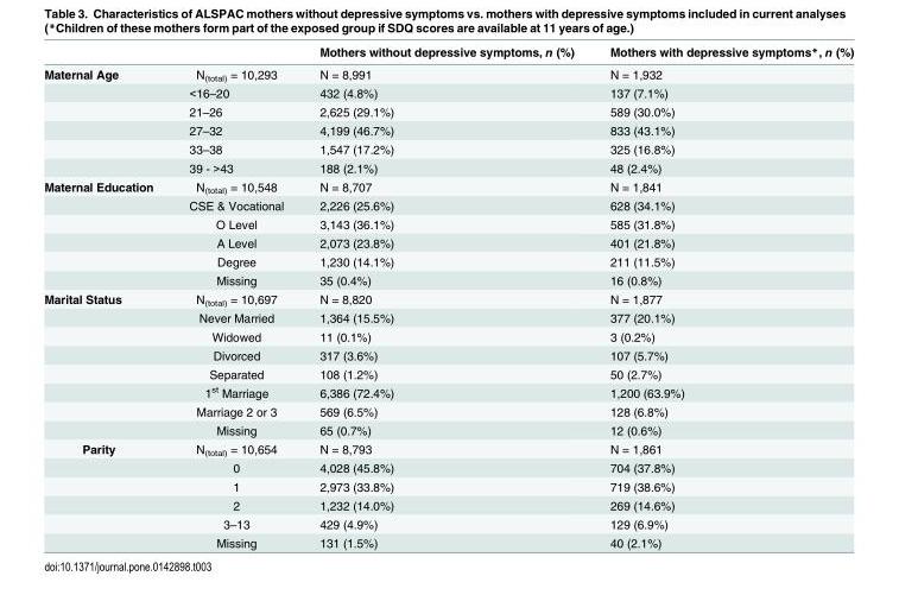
<table><thead><tr><td></td><td></td><td>Mothers without depressive symptoms, n (%)</td><td>Mothers with depressive symptoms*, n (%)</td></tr></thead><tbody><tr><td rowspan="6">Maternal Age</td><td>N<sub>(total)</sub> = 10,293</td><td>N = 8,991</td><td>N = 1,932</td></tr><tr><td>&lt;16–20</td><td>432 (4.8%)</td><td>137 (7.1%)</td></tr><tr><td>21–26</td><td>2,625 (29.1%)</td><td>589 (30.0%)</td></tr><tr><td>27–32</td><td>4,199 (46.7%)</td><td>833 (43.1%)</td></tr><tr><td>33–38</td><td>1,547 (17.2%)</td><td>325 (16.8%)</td></tr><tr><td>39 - &gt;43</td><td>188 (2.1%)</td><td>48 (2.4%)</td></tr><tr><td rowspan="6">Maternal Education</td><td>N<sub>(total)</sub> = 10,548</td><td>N = 8,707</td><td>N = 1,841</td></tr><tr><td>CSE &amp; Vocational</td><td>2,226 (25.6%)</td><td>628 (34.1%)</td></tr><tr><td>O Level</td><td>3,143 (36.1%)</td><td>585 (31.8%)</td></tr><tr><td>A Level</td><td>2,073 (23.8%)</td><td>401 (21.8%)</td></tr><tr><td>Degree</td><td>1,230 (14.1%)</td><td>211 (11.5%)</td></tr><tr><td>Missing</td><td>35 (0.4%)</td><td>16 (0.8%)</td></tr><tr><td rowspan="8">Marital Status</td><td>N<sub>(total)</sub> = 10,697</td><td>N = 8,820</td><td>N = 1,877</td></tr><tr><td>Never Married</td><td>1,364 (15.5%)</td><td>377 (20.1%)</td></tr><tr><td>Widowed</td><td>11 (0.1%)</td><td>3 (0.2%)</td></tr><tr><td>Divorced</td><td>317 (3.6%)</td><td>107 (5.7%)</td></tr><tr><td>Separated</td><td>108 (1.2%)</td><td>50 (2.7%)</td></tr><tr><td>1<sup>st</sup> Marriage</td><td>6,386 (72.4%)</td><td>1,200 (63.9%)</td></tr><tr><td>Marriage 2 or 3</td><td>569 (6.5%)</td><td>128 (6.8%)</td></tr><tr><td>Missing</td><td>65 (0.7%)</td><td>12 (0.6%)</td></tr><tr><td rowspan="6">Parity</td><td>N<sub>(total)</sub> = 10,654</td><td>N = 8,793</td><td>N = 1,861</td></tr><tr><td>0</td><td>4,028 (45.8%)</td><td>704 (37.8%)</td></tr><tr><td>1</td><td>2,973 (33.8%)</td><td>719 (38.6%)</td></tr><tr><td>2</td><td>1,232 (14.0%)</td><td>269 (14.6%)</td></tr><tr><td>3–13</td><td>429 (4.9%)</td><td>129 (6.9%)</td></tr><tr><td>Missing</td><td>131 (1.5%)</td><td>40 (2.1%)</td></tr></tbody></table>